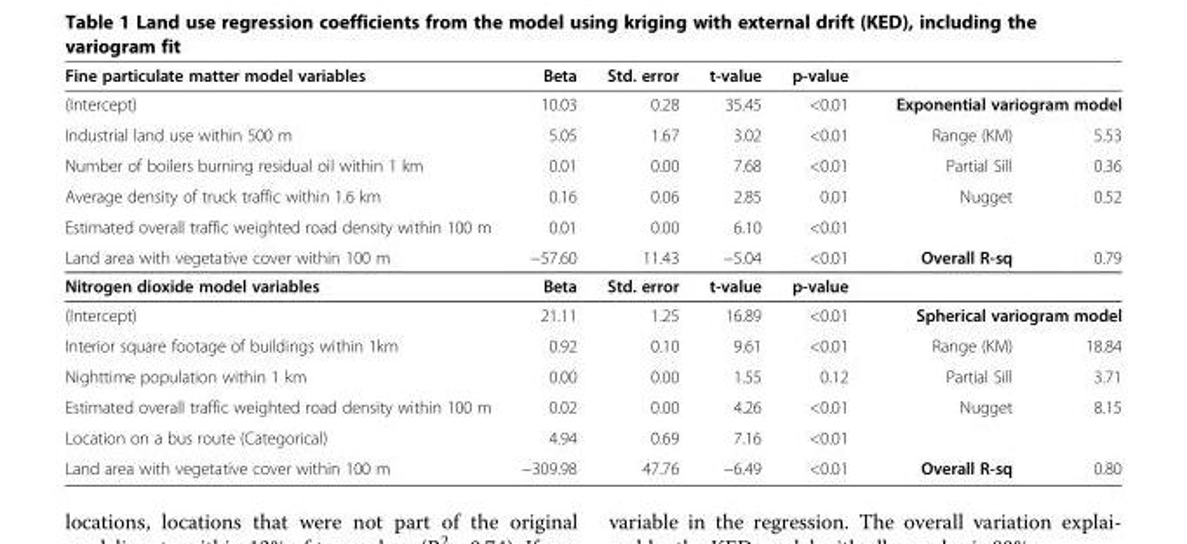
<table><tbody><tr><td>Fine particulate matter model variables</td><td>Beta</td><td>Std. error</td><td>t-value</td><td>p-value</td><td></td><td></td></tr><tr><td>(Intercept)</td><td>10.03</td><td>0.28</td><td>35.45</td><td>&lt;0.01</td><td colspan="2">Exponential variogram model</td></tr><tr><td>Industrial land use within 500 m</td><td>5.05</td><td>1.67</td><td>3.02</td><td>&lt;0.01</td><td>Range (KM)</td><td>5.53</td></tr><tr><td>Number of boilers burning residual oil within 1 km</td><td>0.01</td><td>0.00</td><td>7.68</td><td>&lt;0.01</td><td>Partial Sill</td><td>0.36</td></tr><tr><td>Average density of truck traffic within 1.6 km</td><td>0.16</td><td>0.06</td><td>2.85</td><td>0.01</td><td>Nugget</td><td>0.52</td></tr><tr><td>Estimated overall traffic weighted road density within 100 m</td><td>0.01</td><td>0.00</td><td>6.10</td><td>&lt;0.01</td><td></td><td></td></tr><tr><td>Land area with vegetative cover within 100 m</td><td>−57.60</td><td>11.43</td><td>−5.04</td><td>&lt;0.01</td><td>Overall R-sq</td><td>0.79</td></tr><tr><td>Nitrogen dioxide model variables</td><td>Beta</td><td>Std. error</td><td>t-value</td><td>p-value</td><td></td><td></td></tr><tr><td>(Intercept)</td><td>21.11</td><td>1.25</td><td>16.89</td><td>&lt;0.01</td><td colspan="2">Spherical variogram model</td></tr><tr><td>Interior square footage of buildings within 1km</td><td>0.92</td><td>0.10</td><td>9.61</td><td>&lt;0.01</td><td>Range (KM)</td><td>18.84</td></tr><tr><td>Nighttime population within 1 km</td><td>0.00</td><td>0.00</td><td>1.55</td><td>0.12</td><td>Partial Sill</td><td>3.71</td></tr><tr><td>Estimated overall traffic weighted road density within 100 m</td><td>0.02</td><td>0.00</td><td>4.26</td><td>&lt;0.01</td><td>Nugget</td><td>8.15</td></tr><tr><td>Location on a bus route (Categorical)</td><td>4.94</td><td>0.69</td><td>7.16</td><td>&lt;0.01</td><td></td><td></td></tr><tr><td>Land area with vegetative cover within 100 m</td><td>−309.98</td><td>47.76</td><td>−6.49</td><td>&lt;0.01</td><td>Overall R-sq</td><td>0.80</td></tr></tbody></table>